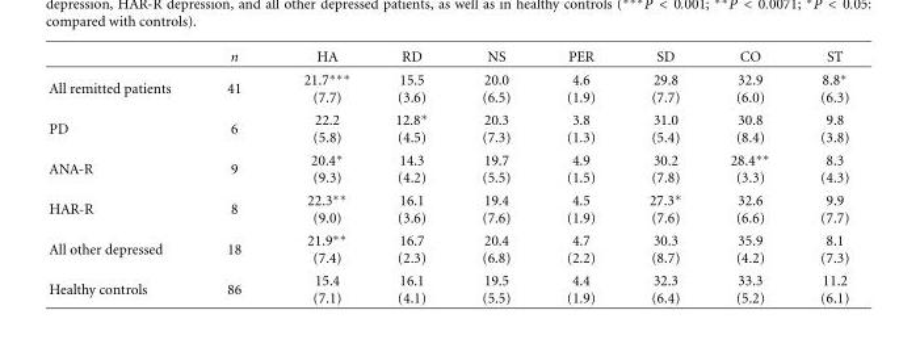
<table><thead><tr><td></td><td>n</td><td>HA</td><td>RD</td><td>NS</td><td>PER</td><td>SD</td><td>CO</td><td>ST</td></tr></thead><tbody><tr><td>All remitted patients</td><td>41</td><td>21.7∗∗∗ (7.7)</td><td>15.5 (3.6)</td><td>20.0 (6.5)</td><td>4.6 (1.9)</td><td>29.8 (7.7)</td><td>32.9 (6.0)</td><td>8.8∗ (6.3)</td></tr><tr><td>PD</td><td>6</td><td>22.2 (5.8)</td><td>12.8∗ (4.5)</td><td>20.3 (7.3)</td><td>3.8 (1.3)</td><td>31.0 (5.4)</td><td>30.8 (8.4)</td><td>9.8 (3.8)</td></tr><tr><td>ANA-R</td><td>9</td><td>20.4∗ (9.3)</td><td>14.3 (4.2)</td><td>19.7 (5.5)</td><td>4.9 (1.5)</td><td>30.2 (7.8)</td><td>28.4∗∗ (3.3)</td><td>8.3 (4.3)</td></tr><tr><td>HAR-R</td><td>8</td><td>22.3∗∗ (9.0)</td><td>16.1 (3.6)</td><td>19.4 (7.6)</td><td>4.5 (1.9)</td><td>27.3∗ (7.6)</td><td>32.6 (6.6)</td><td>9.9 (7.7)</td></tr><tr><td>All other depressed</td><td>18</td><td>21.9∗∗ (7.4)</td><td>16.7 (2.3)</td><td>20.4 (6.8)</td><td>4.7 (2.2)</td><td>30.3 (8.7)</td><td>35.9 (4.2)</td><td>8.1 (7.3)</td></tr><tr><td>Healthy controls</td><td>86</td><td>15.4 (7.1)</td><td>16.1 (4.1)</td><td>19.5 (5.5)</td><td>4.4 (1.9)</td><td>32.3 (6.4)</td><td>33.3 (5.2)</td><td>11.2 (6.1)</td></tr></tbody></table>